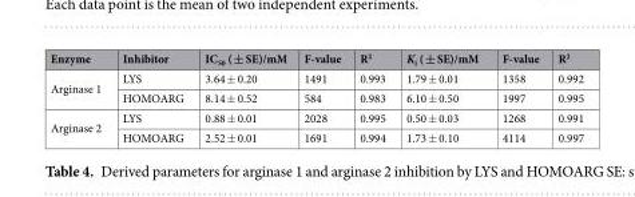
<table><thead><tr><td>Enzyme</td><td>Inhibitor</td><td>IC<sub>50</sub> ( ± SE)/mM</td><td>F-value</td><td>R<sup>2</sup></td><td>K<sub>i</sub> ( ± SE)/mM</td><td>F-value</td><td>R<sup>2</sup></td></tr></thead><tbody><tr><td rowspan="2">Arginase 1</td><td>LYS</td><td>3.64 ± 0.20</td><td>1491</td><td>0.993</td><td>1.79 ± 0.01</td><td>1358</td><td>0.992</td></tr><tr><td>HOMOARG</td><td>8.14 ± 0.52</td><td>584</td><td>0.983</td><td>6.10 ± 0.50</td><td>1997</td><td>0.995</td></tr><tr><td rowspan="2">Arginase 2</td><td>LYS</td><td>0.88 ± 0.01</td><td>2028</td><td>0.995</td><td>0.50 ± 0.03</td><td>1268</td><td>0.991</td></tr><tr><td>HOMOARG</td><td>2.52 ± 0.01</td><td>1691</td><td>0.994</td><td>1.73 ± 0.10</td><td>4114</td><td>0.997</td></tr></tbody></table>